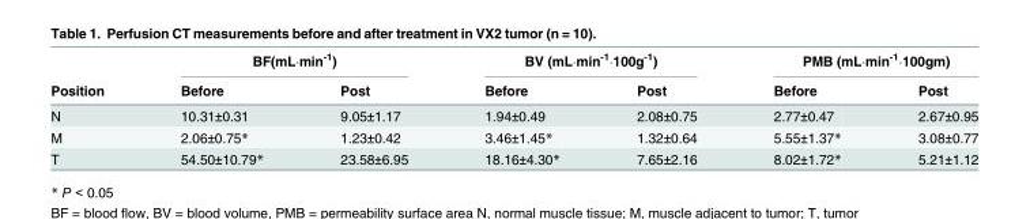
<table><thead><tr><td rowspan="2">Position</td><td colspan="2">BF(mL·min<sup>-1</sup>)</td><td colspan="2">BV (mL·min<sup>-1</sup>·100g<sup>-1</sup>)</td><td colspan="2">PMB (mL·min<sup>-1</sup>·100gm)</td></tr><tr><td>Before</td><td>Post</td><td>Before</td><td>Post</td><td>Before</td><td>Post</td></tr></thead><tbody><tr><td>N</td><td>10.31±0.31</td><td>9.05±1.17</td><td>1.94±0.49</td><td>2.08±0.75</td><td>2.77±0.47</td><td>2.67±0.95</td></tr><tr><td>M</td><td>2.06±0.75*</td><td>1.23±0.42</td><td>3.46±1.45*</td><td>1.32±0.64</td><td>5.55±1.37*</td><td>3.08±0.77</td></tr><tr><td>T</td><td>54.50±10.79*</td><td>23.58±6.95</td><td>18.16±4.30*</td><td>7.65±2.16</td><td>8.02±1.72*</td><td>5.21±1.12</td></tr></tbody></table>